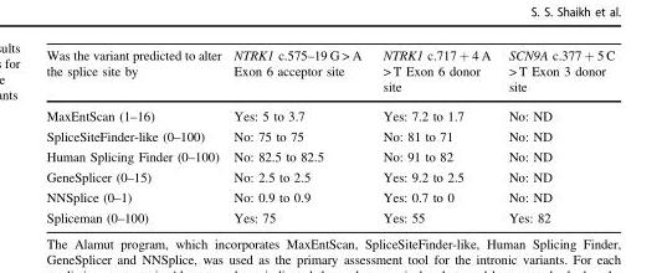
<table><thead><tr><td>Was the variant predicted to alter the splice site by</td><td>NTRK1 c.575–19 G &gt; A Exon 6 acceptor site</td><td>NTRK1 c.717 + 4 A &gt; T Exon 6 donor site</td><td>SCN9A c.377 + 5 C &gt; T Exon 3 donor site</td></tr></thead><tbody><tr><td>MaxEntScan (1–16)</td><td>Yes: 5 to 3.7</td><td>Yes: 7.2 to 1.7</td><td>No: ND</td></tr><tr><td>SpliceSiteFinder-like (0–100)</td><td>No: 75 to 75</td><td>No: 81 to 71</td><td>No: ND</td></tr><tr><td>Human Splicing Finder (0–100)</td><td>No: 82.5 to 82.5</td><td>No: 91 to 82</td><td>No: ND</td></tr><tr><td>GeneSplicer (0–15)</td><td>No: 2.5 to 2.5</td><td>Yes: 9.2 to 2.5</td><td>No: ND</td></tr><tr><td>NNSplice (0–1)</td><td>No: 0.9 to 0.9</td><td>Yes: 0.7 to 0</td><td>No: ND</td></tr><tr><td>Spliceman (0–100)</td><td>Yes: 75</td><td>Yes: 55</td><td>Yes: 82</td></tr></tbody></table>